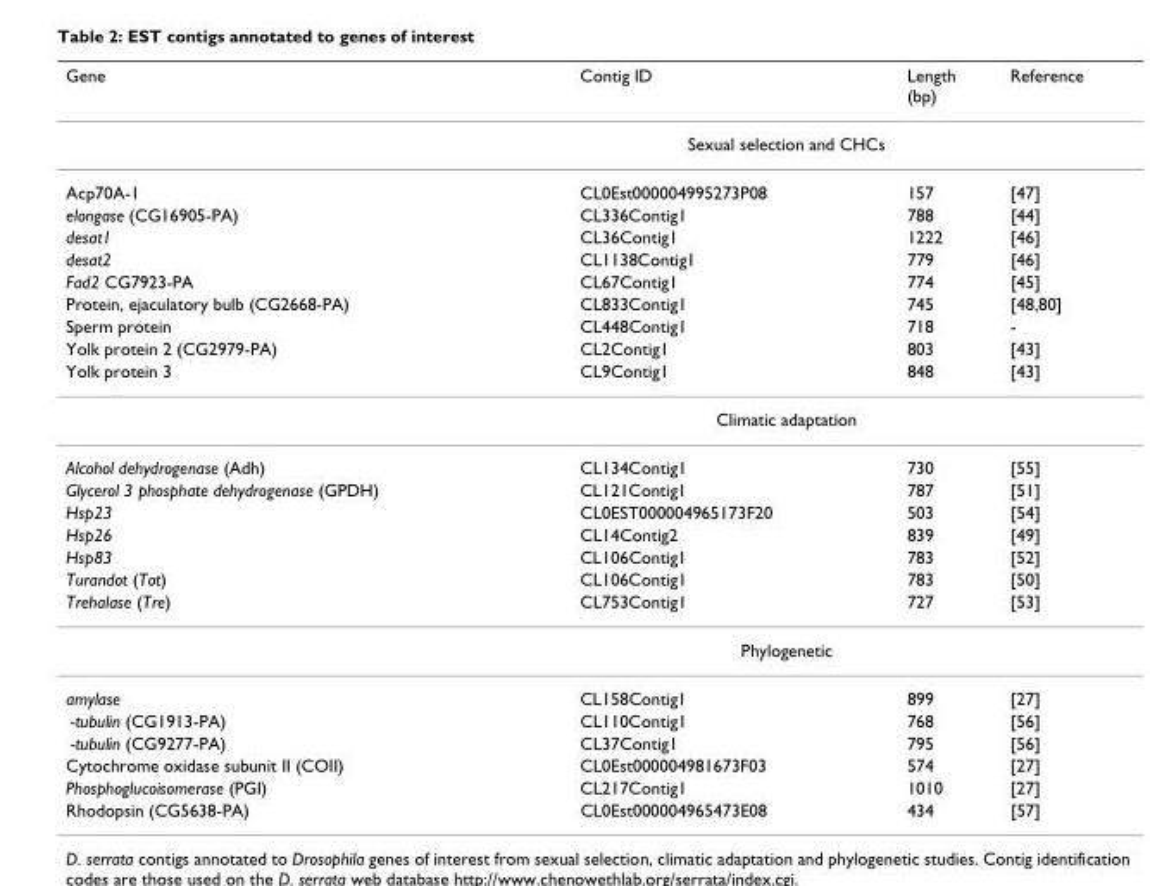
<table><thead><tr><td>Gene</td><td>Contig ID</td><td>Length (bp)</td><td>Reference</td></tr></thead><tbody><tr><td></td><td colspan="2">Sexual selection and CHCs</td><td></td></tr><tr><td>Acp70A-1</td><td>CL0Est000004995273P08</td><td>157</td><td>[47]</td></tr><tr><td>elongase (CG16905-PA)</td><td>CL336Contig1</td><td>788</td><td>[44]</td></tr><tr><td>desat1</td><td>CL36Contig1</td><td>1222</td><td>[46]</td></tr><tr><td>desat2</td><td>CL1138Contig1</td><td>779</td><td>[46]</td></tr><tr><td>Fad2 CG7923-PA</td><td>CL67Contig1</td><td>774</td><td>[45]</td></tr><tr><td>Protein, ejaculatory bulb (CG2668-PA)</td><td>CL833Contig1</td><td>745</td><td>[48,80]</td></tr><tr><td>Sperm protein</td><td>CL448Contig1</td><td>718</td><td>-</td></tr><tr><td>Yolk protein 2 (CG2979-PA)</td><td>CL2Contig1</td><td>803</td><td>[43]</td></tr><tr><td rowspan="2">Yolk protein 3</td><td>CL9Contig1</td><td>848</td><td>[43]</td></tr><tr><td colspan="2">Climatic adaptation</td><td></td></tr><tr><td>Alcohol dehydrogenase (Adh)</td><td>CL134Contig1</td><td>730</td><td>[55]</td></tr><tr><td>Glycerol 3 phosphate dehydrogenase (GPDH)</td><td>CL121Contig1</td><td>787</td><td>[51]</td></tr><tr><td>Hsp23</td><td>CL0EST000004965173F20</td><td>503</td><td>[54]</td></tr><tr><td>Hsp26</td><td>CL14Contig2</td><td>839</td><td>[49]</td></tr><tr><td>Hsp83</td><td>CL106Contig1</td><td>783</td><td>[52]</td></tr><tr><td>Turandot (Tot)</td><td>CL106Contig1</td><td>783</td><td>[50]</td></tr><tr><td rowspan="2">Trehalase (Tre)</td><td>CL753Contig1</td><td>727</td><td>[53]</td></tr><tr><td colspan="2">Phylogenetic</td><td></td></tr><tr><td>amylase</td><td>CL158Contig1</td><td>899</td><td>[27]</td></tr><tr><td>-tubulin (CG1913-PA)</td><td>CL110Contig1</td><td>768</td><td>[56]</td></tr><tr><td>-tubulin (CG9277-PA)</td><td>CL37Contig1</td><td>795</td><td>[56]</td></tr><tr><td>Cytochrome oxidase subunit II (COII)</td><td>CL0Est000004981673F03</td><td>574</td><td>[27]</td></tr><tr><td>Phosphoglucoisomerase (PGI)</td><td>CL217Contig1</td><td>1010</td><td>[27]</td></tr><tr><td>Rhodopsin (CG5638-PA)</td><td>CL0Est000004965473E08</td><td>434</td><td>[57]</td></tr></tbody></table>